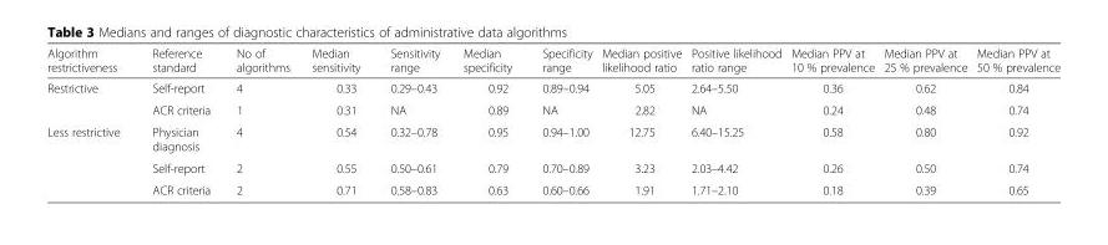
<table><thead><tr><td>Algorithm restrictiveness</td><td>Reference standard</td><td>No of algorithms</td><td>Median sensitivity</td><td>Sensitivity range</td><td>Median specificity</td><td>Specificity range</td><td>Median positive likelihood ratio</td><td>Positive likelihood ratio range</td><td>Median PPV at 10 % prevalence</td><td>Median PPV at 25 % prevalence</td><td>Median PPV at 50 % prevalence</td></tr></thead><tbody><tr><td rowspan="2">Restrictive</td><td>Self-report</td><td>4</td><td>0.33</td><td>0.29–0.43</td><td>0.92</td><td>0.89–0.94</td><td>5.05</td><td>2.64–5.50</td><td>0.36</td><td>0.62</td><td>0.84</td></tr><tr><td>ACR criteria</td><td>1</td><td>0.31</td><td>NA</td><td>0.89</td><td>NA</td><td>2.82</td><td>NA</td><td>0.24</td><td>0.48</td><td>0.74</td></tr><tr><td rowspan="3">Less restrictive</td><td>Physician diagnosis</td><td>4</td><td>0.54</td><td>0.32–0.78</td><td>0.95</td><td>0.94–1.00</td><td>12.75</td><td>6.40–15.25</td><td>0.58</td><td>0.80</td><td>0.92</td></tr><tr><td>Self-report</td><td>2</td><td>0.55</td><td>0.50–0.61</td><td>0.79</td><td>0.70–0.89</td><td>3.23</td><td>2.03–4.42</td><td>0.26</td><td>0.50</td><td>0.74</td></tr><tr><td>ACR criteria</td><td>2</td><td>0.71</td><td>0.58–0.83</td><td>0.63</td><td>0.60–0.66</td><td>1.91</td><td>1.71–2.10</td><td>0.18</td><td>0.39</td><td>0.65</td></tr></tbody></table>